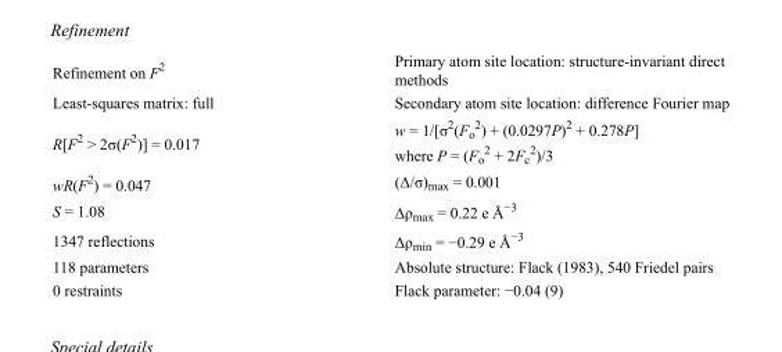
<table><tbody><tr><td>Refinement on F<sup>2</sup></td><td>Primary atom site location: structure-invariant direct methods</td></tr><tr><td>Least-squares matrix: full</td><td>Secondary atom site location: difference Fourier map</td></tr><tr><td>R[F<sup>2</sup> &gt; 2σ(F<sup>2</sup>)] = 0.017</td><td>w = 1/[σ<sup>2</sup>(F<sub>o</sub> <sup>2</sup>) + (0.0297P)<sup>2</sup> + 0.278P] where P = (F<sub>o</sub> <sup>2</sup> + 2F<sub>c</sub> <sup>2</sup>)/3</td></tr><tr><td>wR(F<sup>2</sup>) = 0.047</td><td>(Δ/σ)<sub>max</sub> = 0.001</td></tr><tr><td>S = 1.08</td><td>Δρ<sub>max</sub> = 0.22 e Å<sup>−3</sup></td></tr><tr><td>1347 reflections</td><td>Δρ<sub>min</sub> = −0.29 e Å<sup>−3</sup></td></tr><tr><td>118 parameters</td><td>Absolute structure: Flack (1983), 540 Friedel pairs</td></tr><tr><td>0 restraints</td><td>Flack parameter: −0.04 (9)</td></tr></tbody></table>